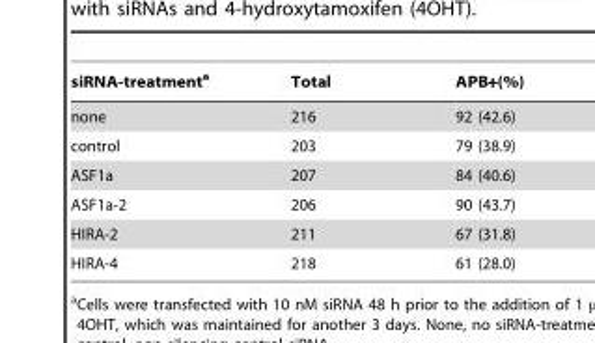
<table><thead><tr><td>siRNA-treatment<sup>a</sup></td><td>Total</td><td>APB+(%)</td></tr></thead><tbody><tr><td>none</td><td>216</td><td>92 (42.6)</td></tr><tr><td>control</td><td>203</td><td>79 (38.9)</td></tr><tr><td>ASF1a</td><td>207</td><td>84 (40.6)</td></tr><tr><td>ASF1a-2</td><td>206</td><td>90 (43.7)</td></tr><tr><td>HIRA-2</td><td>211</td><td>67 (31.8)</td></tr><tr><td>HIRA-4</td><td>218</td><td>61 (28.0)</td></tr></tbody></table>